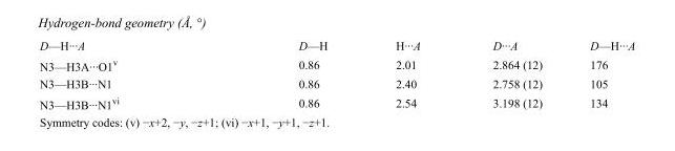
<table><tbody><tr><td>D—H···A</td><td>D—H</td><td>H···A</td><td>D···A</td><td>D—H···A</td></tr><tr><td>N3—H3A···O1<sup>v</sup></td><td>0.86</td><td>2.01</td><td>2.864 (12)</td><td>176</td></tr><tr><td>N3—H3B···N1</td><td>0.86</td><td>2.40</td><td>2.758 (12)</td><td>105</td></tr><tr><td>N3—H3B···N1<sup>vi</sup></td><td>0.86</td><td>2.54</td><td>3.198 (12)</td><td>134</td></tr></tbody></table>